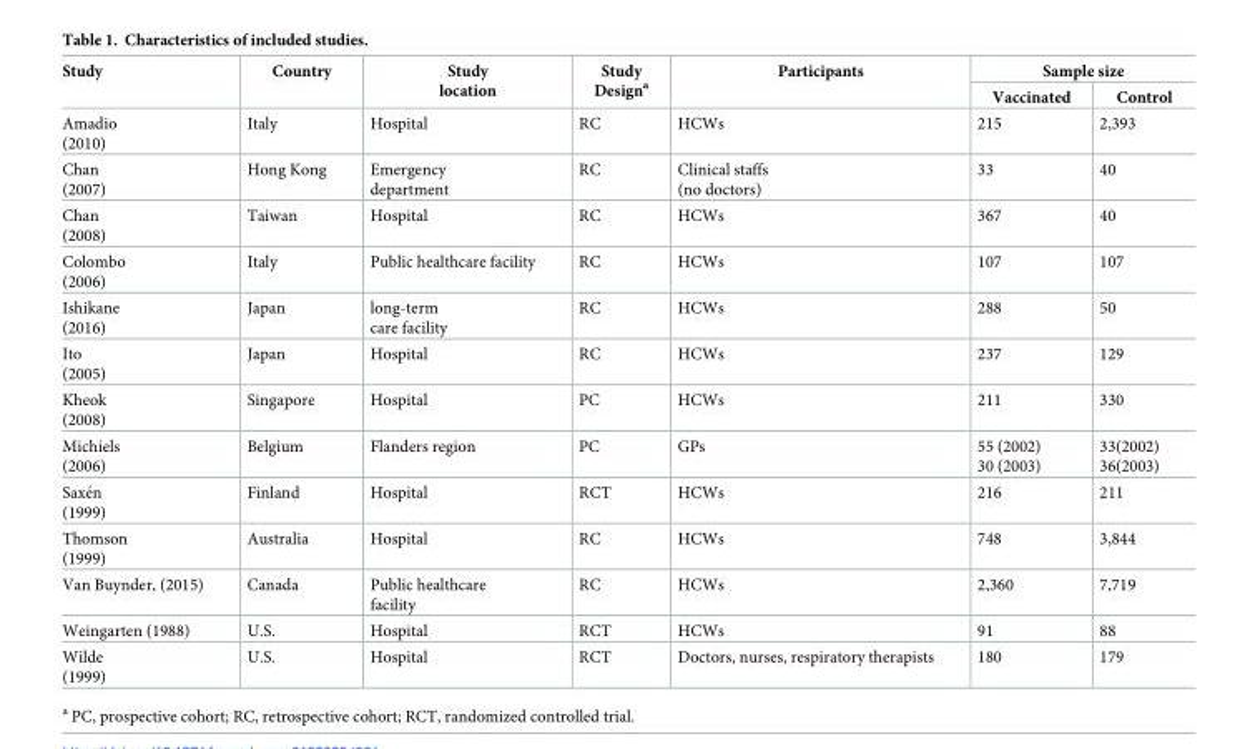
<table><thead><tr><td rowspan="2">Study</td><td rowspan="2">Country</td><td rowspan="2">Study location</td><td rowspan="2">Study Design<sup>a</sup></td><td rowspan="2">Participants</td><td colspan="2">Sample size</td></tr><tr><td>Vaccinated</td><td>Control</td></tr></thead><tbody><tr><td>Amadio (2010)</td><td>Italy</td><td>Hospital</td><td>RC</td><td>HCWs</td><td>215</td><td>2,393</td></tr><tr><td>Chan (2007)</td><td>Hong Kong</td><td>Emergency department</td><td>RC</td><td>Clinical staffs (no doctors)</td><td>33</td><td>40</td></tr><tr><td>Chan (2008)</td><td>Taiwan</td><td>Hospital</td><td>RC</td><td>HCWs</td><td>367</td><td>40</td></tr><tr><td>Colombo (2006)</td><td>Italy</td><td>Public healthcare facility</td><td>RC</td><td>HCWs</td><td>107</td><td>107</td></tr><tr><td>Ishikane (2016)</td><td>Japan</td><td>long-term care facility</td><td>RC</td><td>HCWs</td><td>288</td><td>50</td></tr><tr><td>Ito (2005)</td><td>Japan</td><td>Hospital</td><td>RC</td><td>HCWs</td><td>237</td><td>129</td></tr><tr><td>Kheok (2008)</td><td>Singapore</td><td>Hospital</td><td>PC</td><td>HCWs</td><td>211</td><td>330</td></tr><tr><td>Michiels (2006)</td><td>Belgium</td><td>Flanders region</td><td>PC</td><td>GPs</td><td>55 (2002) 30 (2003)</td><td>33(2002) 36(2003)</td></tr><tr><td>Saxe´n (1999)</td><td>Finland</td><td>Hospital</td><td>RCT</td><td>HCWs</td><td>216</td><td>211</td></tr><tr><td>Thomson (1999)</td><td>Australia</td><td>Hospital</td><td>RC</td><td>HCWs</td><td>748</td><td>3,844</td></tr><tr><td>Van Buynder, (2015)</td><td>Canada</td><td>Public healthcare facility</td><td>RC</td><td>HCWs</td><td>2,360</td><td>7,719</td></tr><tr><td>Weingarten (1988)</td><td>U.S.</td><td>Hospital</td><td>RCT</td><td>HCWs</td><td>91</td><td>88</td></tr><tr><td>Wilde (1999)</td><td>U.S.</td><td>Hospital</td><td>RCT</td><td>Doctors, nurses, respiratory therapists</td><td>180</td><td>179</td></tr></tbody></table>